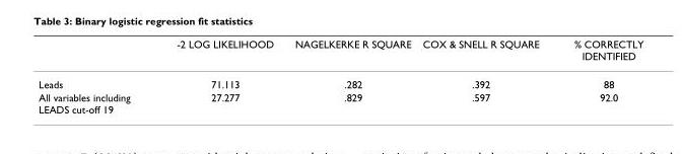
<table><thead><tr><td></td><td>-2 LOG LIKELIHOOD</td><td>NAGELKERKE R SQUARE</td><td>COX &amp; SNELL R SQUARE</td><td>% CORRECTLY IDENTIFIED</td></tr></thead><tbody><tr><td>Leads</td><td>71.113</td><td>.282</td><td>.392</td><td>88</td></tr><tr><td>All variables including LEADS cut-off 19</td><td>27.277</td><td>.829</td><td>.597</td><td>92.0</td></tr></tbody></table>